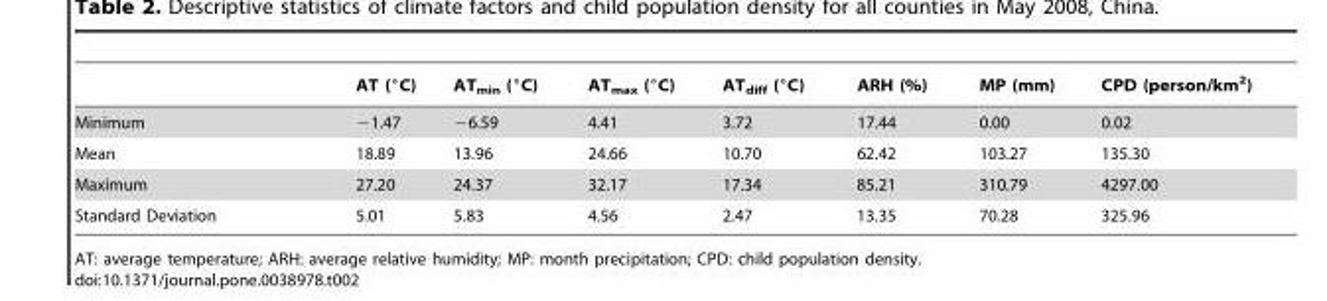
<table><thead><tr><td></td><td>AT (°C)</td><td>AT<sub>min</sub> (°C)</td><td>AT<sub>max</sub> (°C)</td><td>AT<sub>diff</sub> (°C)</td><td>ARH (%)</td><td>MP (mm)</td><td>CPD (person/km<sup>2</sup>)</td></tr></thead><tbody><tr><td>Minimum</td><td>−1.47</td><td>−6.59</td><td>4.41</td><td>3.72</td><td>17.44</td><td>0.00</td><td>0.02</td></tr><tr><td>Mean</td><td>18.89</td><td>13.96</td><td>24.66</td><td>10.70</td><td>62.42</td><td>103.27</td><td>135.30</td></tr><tr><td>Maximum</td><td>27.20</td><td>24.37</td><td>32.17</td><td>17.34</td><td>85.21</td><td>310.79</td><td>4297.00</td></tr><tr><td>Standard Deviation</td><td>5.01</td><td>5.83</td><td>4.56</td><td>2.47</td><td>13.35</td><td>70.28</td><td>325.96</td></tr></tbody></table>